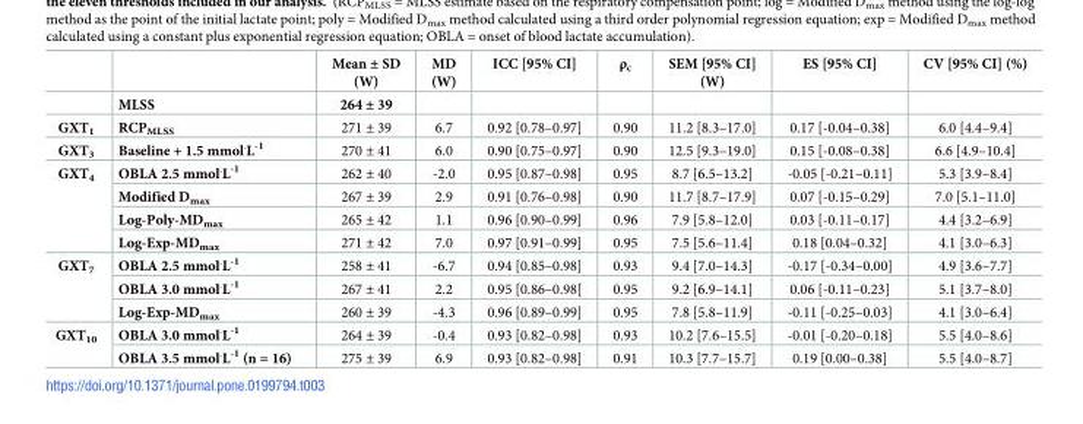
<table><thead><tr><td></td><td></td><td>Mean ± SD (W)</td><td>MD (W)</td><td>ICC [95% CI]</td><td>ρ<sub>c</sub></td><td>SEM [95% CI] (W)</td><td>ES [95% CI]</td><td>CV [95% CI] (%)</td></tr></thead><tbody><tr><td></td><td>MLSS</td><td>264 ± 39</td><td></td><td></td><td></td><td></td><td></td><td></td></tr><tr><td>GXT<sub>1</sub></td><td>RCP<sub>MLSS</sub></td><td>271 ± 39</td><td>6.7</td><td>0.92 [0.78–0.97]</td><td>0.90</td><td>11.2 [8.3–17.0]</td><td>0.17 [-0.04–0.38]</td><td>6.0 [4.4–9.4]</td></tr><tr><td>GXT<sub>3</sub></td><td>Baseline + 1.5 mmol<sup>.</sup>L<sup>-1</sup></td><td>270 ± 41</td><td>6.0</td><td>0.90 [0.75–0.97]</td><td>0.90</td><td>12.5 [9.3–19.0]</td><td>0.15 [-0.08–0.38]</td><td>6.6 [4.9–10.4]</td></tr><tr><td rowspan="4">GXT<sub>4</sub></td><td>OBLA 2.5 mmol<sup>.</sup>L<sup>-1</sup></td><td>262 ± 40</td><td>-2.0</td><td>0.95 [0.87–0.98]</td><td>0.95</td><td>8.7 [6.5–13.2]</td><td>-0.05 [-0.21–0.11]</td><td>5.3 [3.9–8.4]</td></tr><tr><td>Modified D<sub>max</sub></td><td>267 ± 39</td><td>2.9</td><td>0.91 [0.76–0.98]</td><td>0.90</td><td>11.7 [8.7–17.9]</td><td>0.07 [-0.15–0.29]</td><td>7.0 [5.1–11.0]</td></tr><tr><td>Log-Poly-MD<sub>max</sub></td><td>265 ± 42</td><td>1.1</td><td>0.96 [0.90–0.99]</td><td>0.96</td><td>7.9 [5.8–12.0]</td><td>0.03 [-0.11–0.17]</td><td>4.4 [3.2–6.9]</td></tr><tr><td>Log-Exp-MD<sub>max</sub></td><td>271 ± 42</td><td>7.0</td><td>0.97 [0.91–0.99]</td><td>0.95</td><td>7.5 [5.6–11.4]</td><td>0.18 [0.04–0.32]</td><td>4.1 [3.0–6.3]</td></tr><tr><td rowspan="3">GXT<sub>7</sub></td><td>OBLA 2.5 mmol<sup>.</sup>L<sup>-1</sup></td><td>258 ± 41</td><td>-6.7</td><td>0.94 [0.85–0.98]</td><td>0.93</td><td>9.4 [7.0–14.3]</td><td>-0.17 [-0.34–0.00]</td><td>4.9 [3.6–7.7]</td></tr><tr><td>OBLA 3.0 mmol<sup>.</sup>L<sup>-1</sup></td><td>267 ± 41</td><td>2.2</td><td>0.95 [0.86–0.98[</td><td>0.95</td><td>9.2 [6.9–14.1]</td><td>0.06 [-0.11–0.23]</td><td>5.1 [3.7–8.0]</td></tr><tr><td>Log-Exp-MD<sub>max</sub></td><td>260 ± 39</td><td>-4.3</td><td>0.96 [0.89–0.99]</td><td>0.95</td><td>7.8 [5.8–11.9]</td><td>-0.11 [-0.25–0.03]</td><td>4.1 [3.0–6.4]</td></tr><tr><td rowspan="2">GXT<sub>10</sub></td><td>OBLA 3.0 mmol<sup>.</sup>L<sup>-1</sup></td><td>264 ± 39</td><td>-0.4</td><td>0.93 [0.82–0.98]</td><td>0.93</td><td>10.2 [7.6–15.5]</td><td>-0.01 [-0.20–0.18]</td><td>5.5 [4.0–8.6]</td></tr><tr><td>OBLA 3.5 mmol<sup>.</sup>L<sup>-1</sup> (n = 16)</td><td>275 ± 39</td><td>6.9</td><td>0.93 [0.82–0.98]</td><td>0.91</td><td>10.3 [7.7–15.7]</td><td>0.19 [0.00–0.38]</td><td>5.5 [4.0–8.7]</td></tr></tbody></table>